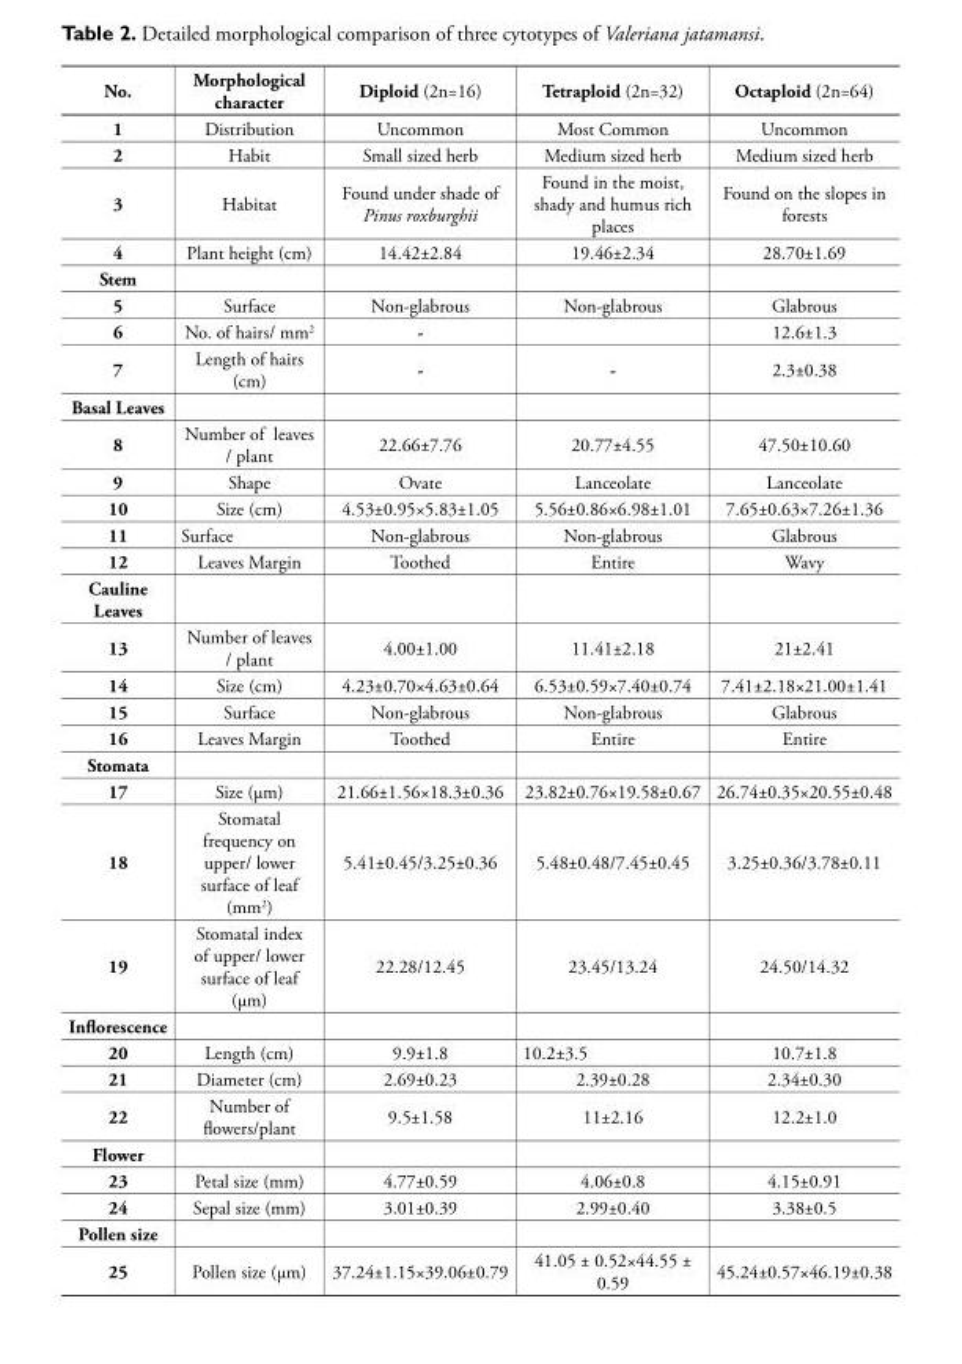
<table><thead><tr><td>No.</td><td>Morphological character</td><td>Diploid (2n=16)</td><td>Tetraploid (2n=32)</td><td>Octaploid (2n=64)</td></tr></thead><tbody><tr><td>1</td><td>Distribution</td><td>Uncommon</td><td>Most Common</td><td>Uncommon</td></tr><tr><td>2</td><td>Habit</td><td>Small sized herb</td><td>Medium sized herb</td><td>Medium sized herb</td></tr><tr><td>3</td><td>Habitat</td><td>Found under shade of Pinus roxburghii</td><td>Found in the moist, shady and humus rich places</td><td>Found on the slopes in forests</td></tr><tr><td>4</td><td>Plant height (cm)</td><td>14.42±2.84</td><td>19.46±2.34</td><td>28.70±1.69</td></tr><tr><td colspan="5">Stem</td></tr><tr><td>5</td><td>Surface</td><td>Non-glabrous</td><td>Non-glabrous</td><td>Glabrous</td></tr><tr><td>6</td><td>No. of hairs/ mm<sup>2</sup></td><td>-</td><td></td><td>12.6±1.3</td></tr><tr><td>7</td><td>Length of hairs (cm)</td><td>-</td><td>-</td><td>2.3±0.38</td></tr><tr><td colspan="5">Basal Leaves</td></tr><tr><td>8</td><td>Number of leaves / plant</td><td>22.66±7.76</td><td>20.77±4.55</td><td>47.50±10.60</td></tr><tr><td>9</td><td>Shape</td><td>Ovate</td><td>Lanceolate</td><td>Lanceolate</td></tr><tr><td>10</td><td>Size (cm)</td><td>4.53±0.95×5.83±1.05</td><td>5.56±0.86×6.98±1.01</td><td>7.65±0.63×7.26±1.36</td></tr><tr><td>11</td><td>Surface</td><td>Non-glabrous</td><td>Non-glabrous</td><td>Glabrous</td></tr><tr><td>12</td><td>Leaves Margin</td><td>Toothed</td><td>Entire</td><td>Wavy</td></tr><tr><td colspan="5">Cauline Leaves</td></tr><tr><td>13</td><td>Number of leaves / plant</td><td>4.00±1.00</td><td>11.41±2.18</td><td>21±2.41</td></tr><tr><td>14</td><td>Size (cm)</td><td>4.23±0.70×4.63±0.64</td><td>6.53±0.59×7.40±0.74</td><td>7.41±2.18×21.00±1.41</td></tr><tr><td>15</td><td>Surface</td><td>Non-glabrous</td><td>Non-glabrous</td><td>Glabrous</td></tr><tr><td>16</td><td>Leaves Margin</td><td>Toothed</td><td>Entire</td><td>Entire</td></tr><tr><td colspan="5">Stomata</td></tr><tr><td>17</td><td>Size (µm)</td><td>21.66±1.56×18.3±0.36</td><td>23.82±0.76×19.58±0.67</td><td>26.74±0.35×20.55±0.48</td></tr><tr><td>18</td><td>Stomatal frequency on upper/ lower surface of leaf (mm<sup>2</sup>)</td><td>5.41±0.45/3.25±0.36</td><td>5.48±0.48/7.45±0.45</td><td>3.25±0.36/3.78±0.11</td></tr><tr><td>19</td><td>Stomatal index of upper/ lower surface of leaf (µm)</td><td>22.28/12.45</td><td>23.45/13.24</td><td>24.50/14.32</td></tr><tr><td colspan="5">Inflorescence</td></tr><tr><td>20</td><td>Length (cm)</td><td>9.9±1.8</td><td>10.2±3.5</td><td>10.7±1.8</td></tr><tr><td>21</td><td>Diameter (cm)</td><td>2.69±0.23</td><td>2.39±0.28</td><td>2.34±0.30</td></tr><tr><td>22</td><td>Number of flowers/plant</td><td>9.5±1.58</td><td>11±2.16</td><td>12.2±1.0</td></tr><tr><td colspan="5">Flower</td></tr><tr><td>23</td><td>Petal size (mm)</td><td>4.77±0.59</td><td>4.06±0.8</td><td>4.15±0.91</td></tr><tr><td>24</td><td>Sepal size (mm)</td><td>3.01±0.39</td><td>2.99±0.40</td><td>3.38±0.5</td></tr><tr><td colspan="5">Pollen size</td></tr><tr><td>25</td><td>Pollen size (µm)</td><td>37.24±1.15×39.06±0.79</td><td>41.05 ± 0.52×44.55 ± 0.59</td><td>45.24±0.57×46.19±0.38</td></tr></tbody></table>